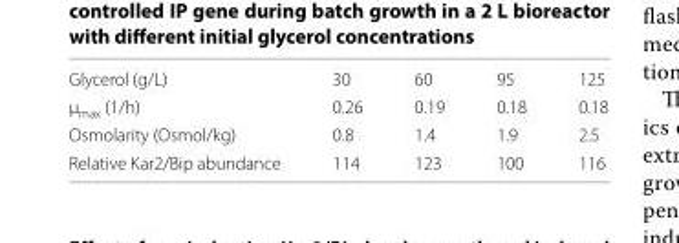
<table><tbody><tr><td>Glycerol (g/L)</td><td>30</td><td>60</td><td>95</td><td>125</td></tr><tr><td>µ<sub>max</sub> (1/h)</td><td>0.26</td><td>0.19</td><td>0.18</td><td>0.18</td></tr><tr><td>Osmolarity (Osmol/kg)</td><td>0.8</td><td>1.4</td><td>1.9</td><td>2.5</td></tr><tr><td>Relative Kar2/Bip abundance</td><td>114</td><td>123</td><td>100</td><td>116</td></tr></tbody></table>